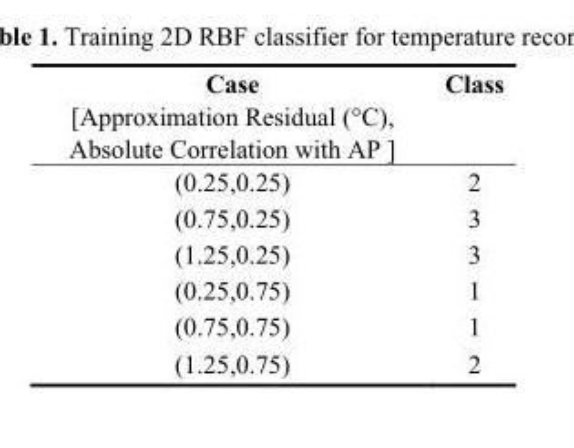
<table><thead><tr><td>Case [Approximation Residual (°C), Absolute Correlation with AP ]</td><td>Class</td></tr></thead><tbody><tr><td>(0.25,0.25)</td><td>2</td></tr><tr><td>(0.75,0.25)</td><td>3</td></tr><tr><td>(1.25,0.25)</td><td>3</td></tr><tr><td>(0.25,0.75)</td><td>1</td></tr><tr><td>(0.75,0.75)</td><td>1</td></tr><tr><td>(1.25,0.75)</td><td>2</td></tr></tbody></table>